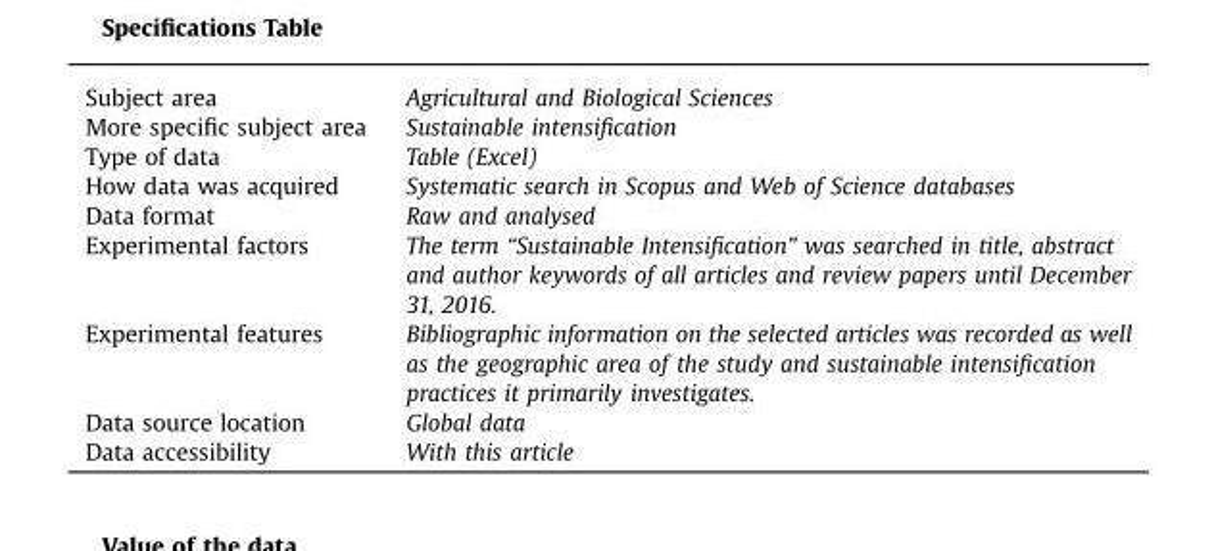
<table><tbody><tr><td>Subject area</td><td>Agricultural and Biological Sciences</td></tr><tr><td>More specific subject area</td><td>Sustainable intensification</td></tr><tr><td>Type of data</td><td>Table (Excel)</td></tr><tr><td>How data was acquired</td><td>Systematic search in Scopus and Web of Science databases</td></tr><tr><td>Data format</td><td>Raw and analysed</td></tr><tr><td>Experimental factors</td><td>The term “Sustainable Intensification” was searched in title, abstract and author keywords of all articles and review papers until December 31, 2016.</td></tr><tr><td>Experimental features</td><td>Bibliographic information on the selected articles was recorded as well as the geographic area of the study and sustainable intensification practices it primarily investigates.</td></tr><tr><td>Data source location</td><td>Global data</td></tr><tr><td>Data accessibility</td><td>With this article</td></tr></tbody></table>